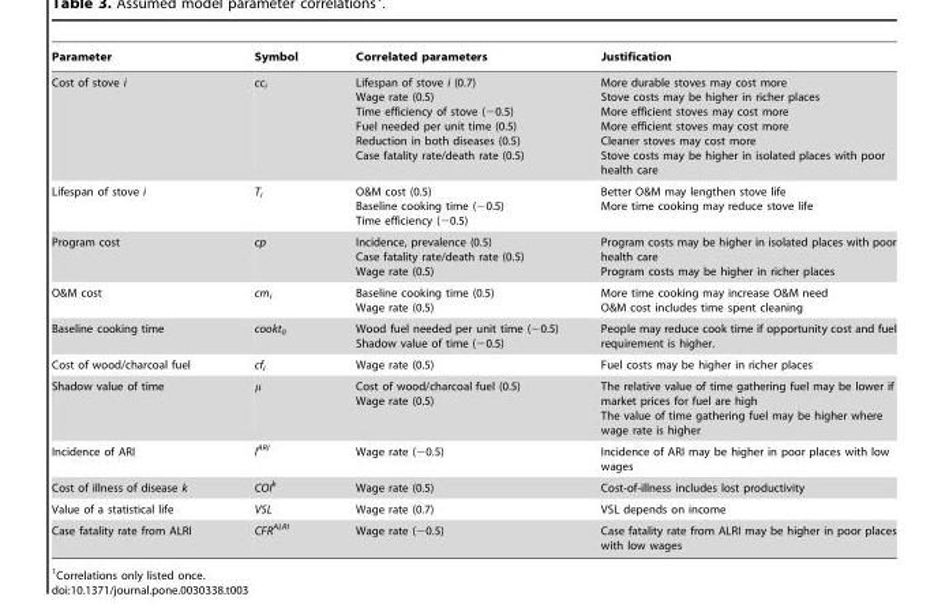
<table><thead><tr><td>Parameter</td><td>Symbol</td><td>Correlated parameters</td><td>Justification</td></tr></thead><tbody><tr><td>Cost of stove i</td><td>cc<sub>i</sub></td><td>Lifespan of stove i (0.7) Wage rate (0.5) Time efficiency of stove (−0.5) Fuel needed per unit time (0.5) Reduction in both diseases (0.5) Case fatality rate/death rate (0.5)</td><td>More durable stoves may cost more Stove costs may be higher in richer places More efficient stoves may cost more More efficient stoves may cost more Cleaner stoves may cost more Stove costs may be higher in isolated places with poor health care</td></tr><tr><td>Lifespan of stove i</td><td>T<sub>i</sub></td><td>O&amp;M cost (0.5) Baseline cooking time (−0.5) Time efficiency (−0.5)</td><td>Better O&amp;M may lengthen stove life More time cooking may reduce stove life</td></tr><tr><td>Program cost</td><td>cp</td><td>Incidence, prevalence (0.5) Case fatality rate/death rate (0.5) Wage rate (0.5)</td><td>Program costs may be higher in isolated places with poor health care Program costs may be higher in richer places</td></tr><tr><td>O&amp;M cost</td><td>cm<sub>i</sub></td><td>Baseline cooking time (0.5) Wage rate (0.5)</td><td>More time cooking may increase O&amp;M need O&amp;M cost includes time spent cleaning</td></tr><tr><td>Baseline cooking time</td><td>cookt<sub>0</sub></td><td>Wood fuel needed per unit time (−0.5) Shadow value of time (−0.5)</td><td>People may reduce cook time if opportunity cost and fuel requirement is higher.</td></tr><tr><td>Cost of wood/charcoal fuel</td><td>cf<sub>i</sub></td><td>Wage rate (0.5)</td><td>Fuel costs may be higher in richer places</td></tr><tr><td>Shadow value of time</td><td>μ</td><td>Cost of wood/charcoal fuel (0.5) Wage rate (0.5)</td><td>The relative value of time gathering fuel may be lower if market prices for fuel are high The value of time gathering fuel may be higher where wage rate is higher</td></tr><tr><td>Incidence of ARI</td><td>I<sup>ARI</sup></td><td>Wage rate (−0.5)</td><td>Incidence of ARI may be higher in poor places with low wages</td></tr><tr><td>Cost of illness of disease k</td><td>COI<sup>k</sup></td><td>Wage rate (0.5)</td><td>Cost-of-illness includes lost productivity</td></tr><tr><td>Value of a statistical life</td><td>VSL</td><td>Wage rate (0.7)</td><td>VSL depends on income</td></tr><tr><td>Case fatality rate from ALRI</td><td>CFR<sup>ALRI</sup></td><td>Wage rate (−0.5)</td><td>Case fatality rate from ALRI may be higher in poor places with low wages</td></tr></tbody></table>